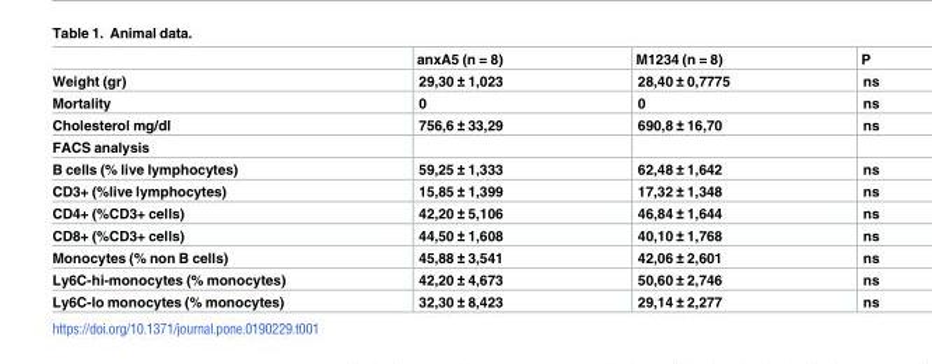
<table><thead><tr><td></td><td>anxA5 (n = 8)</td><td>M1234 (n = 8)</td><td>P</td></tr></thead><tbody><tr><td>Weight (gr)</td><td>29,30 ± 1,023</td><td>28,40 ± 0,7775</td><td>ns</td></tr><tr><td>Mortality</td><td>0</td><td>0</td><td>ns</td></tr><tr><td>Cholesterol mg/dl</td><td>756,6 ± 33,29</td><td>690,8 ± 16,70</td><td>ns</td></tr><tr><td colspan="4">FACS analysis</td></tr><tr><td>B cells (% live lymphocytes)</td><td>59,25 ± 1,333</td><td>62,48 ± 1,642</td><td>ns</td></tr><tr><td>CD3+ (%live lymphocytes)</td><td>15,85 ± 1,399</td><td>17,32 ± 1,348</td><td>ns</td></tr><tr><td>CD4+ (%CD3+ cells)</td><td>42,20 ± 5,106</td><td>46,84 ± 1,644</td><td>ns</td></tr><tr><td>CD8+ (%CD3+ cells)</td><td>44,50 ± 1,608</td><td>40,10 ± 1,768</td><td>ns</td></tr><tr><td>Monocytes (% non B cells)</td><td>45,88 ± 3,541</td><td>42,06 ± 2,601</td><td>ns</td></tr><tr><td>Ly6C-hi-monocytes (% monocytes)</td><td>42,20 ± 4,673</td><td>50,60 ± 2,746</td><td>ns</td></tr><tr><td>Ly6C-lo monocytes (% monocytes)</td><td>32,30 ± 8,423</td><td>29,14 ± 2,277</td><td>ns</td></tr></tbody></table>